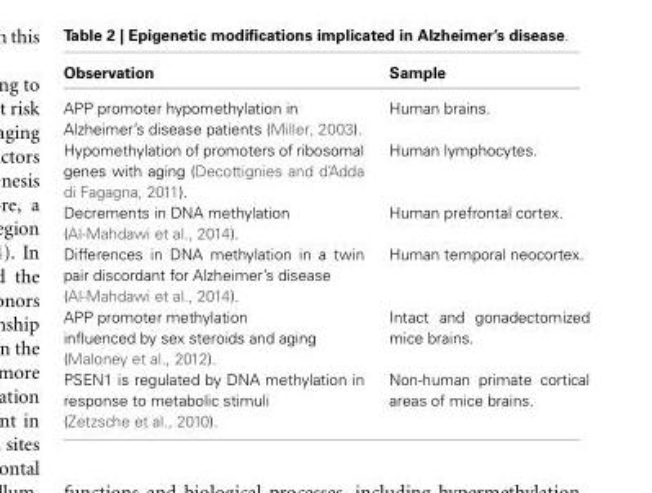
<table><thead><tr><td>Observation</td><td>Sample</td></tr></thead><tbody><tr><td>APP promoter hypomethylation in Alzheimer’s disease patients (Miller, 2003).</td><td>Human brains.</td></tr><tr><td>Hypomethylation of promoters of ribosomal genes with aging (Decottignies and d’Adda di Fagagna, 2011).</td><td>Human lymphocytes.</td></tr><tr><td>Decrements in DNA methylation (Al-Mahdawi et al., 2014).</td><td>Human prefrontal cortex.</td></tr><tr><td>Differences in DNA methylation in a twin pair discordant for Alzheimer’s disease (Al-Mahdawi et al., 2014).</td><td>Human temporal neocortex.</td></tr><tr><td>APP promoter methylation influenced by sex steroids and aging (Maloney et al., 2012).</td><td>Intact and gonadectomized mice brains.</td></tr><tr><td>PSEN1 is regulated by DNA methylation in response to metabolic stimuli (Zetzsche et al., 2010).</td><td>Non-human primate cortical areas of mice brains.</td></tr></tbody></table>